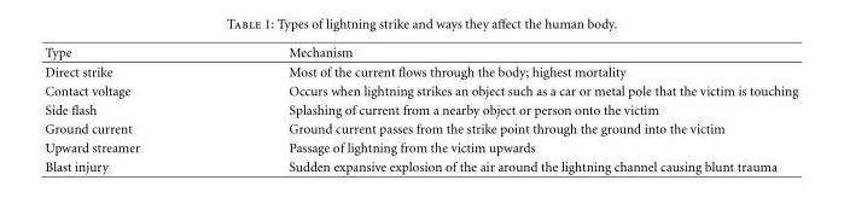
<table><thead><tr><td>Type</td><td>Mechanism</td></tr></thead><tbody><tr><td>Direct strike</td><td>Most of the current flows through the body; highest mortality</td></tr><tr><td>Contact voltage</td><td>Occurs when lightning strikes an object such as a car or metal pole that the victim is touching</td></tr><tr><td>Side flash</td><td>Splashing of current from a nearby object or person onto the victim</td></tr><tr><td>Ground current</td><td>Ground current passes from the strike point through the ground into the victim</td></tr><tr><td>Upward streamer</td><td>Passage of lightning from the victim upwards</td></tr><tr><td>Blast injury</td><td>Sudden expansive explosion of the air around the lightning channel causing blunt trauma</td></tr></tbody></table>